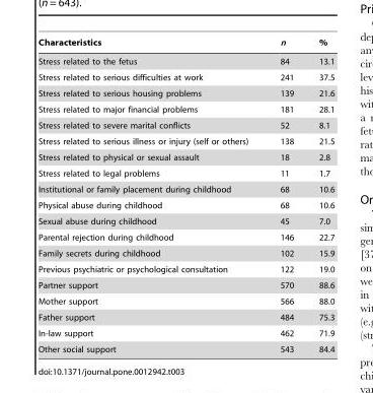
<table><thead><tr><td>Characteristics</td><td>n</td><td>%</td></tr></thead><tbody><tr><td>Stress related to the fetus</td><td>84</td><td>13.1</td></tr><tr><td>Stress related to serious difficulties at work</td><td>241</td><td>37.5</td></tr><tr><td>Stress related to serious housing problems</td><td>139</td><td>21.6</td></tr><tr><td>Stress related to major financial problems</td><td>181</td><td>28.1</td></tr><tr><td>Stress related to severe marital conflicts</td><td>52</td><td>8.1</td></tr><tr><td>Stress related to serious illness or injury (self or others)</td><td>138</td><td>21.5</td></tr><tr><td>Stress related to physical or sexual assault</td><td>18</td><td>2.8</td></tr><tr><td>Stress related to legal problems</td><td>11</td><td>1.7</td></tr><tr><td>Institutional or family placement during childhood</td><td>68</td><td>10.6</td></tr><tr><td>Physical abuse during childhood</td><td>68</td><td>10.6</td></tr><tr><td>Sexual abuse during childhood</td><td>45</td><td>7.0</td></tr><tr><td>Parental rejection during childhood</td><td>146</td><td>22.7</td></tr><tr><td>Family secrets during childhood</td><td>102</td><td>15.9</td></tr><tr><td>Previous psychiatric or psychological consultation</td><td>122</td><td>19.0</td></tr><tr><td>Partner support</td><td>570</td><td>88.6</td></tr><tr><td>Mother support</td><td>566</td><td>88.0</td></tr><tr><td>Father support</td><td>484</td><td>75.3</td></tr><tr><td>In-law support</td><td>462</td><td>71.9</td></tr><tr><td>Other social support</td><td>543</td><td>84.4</td></tr></tbody></table>